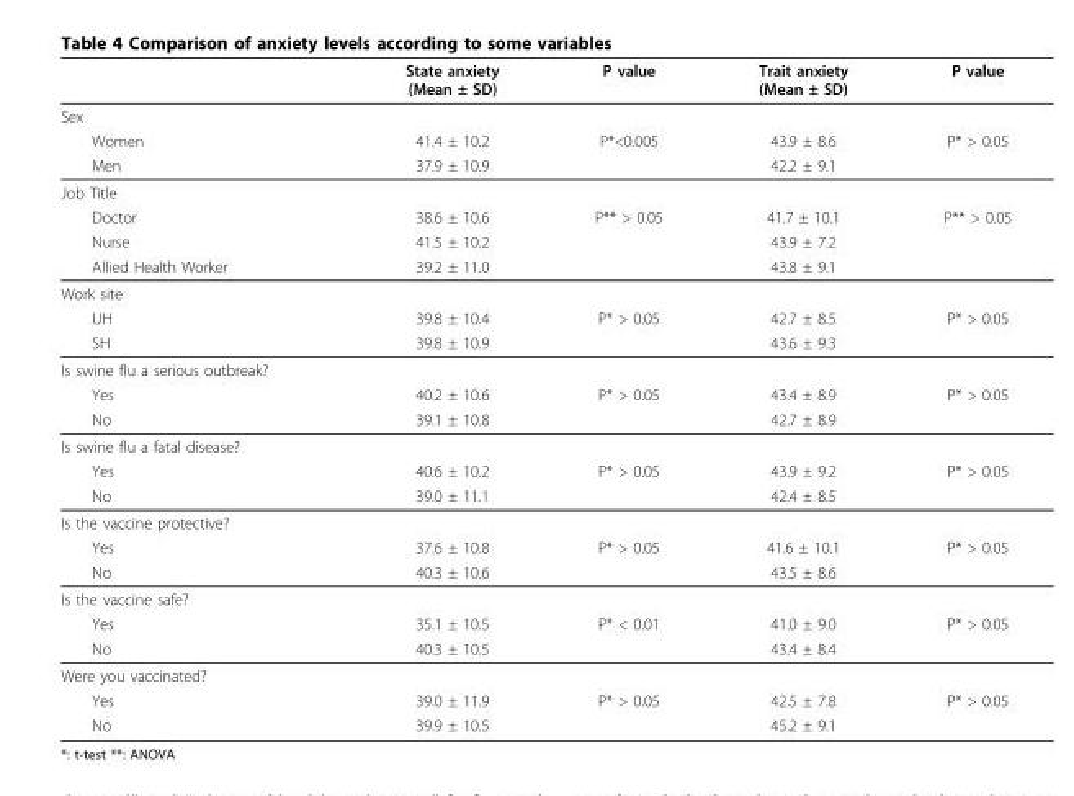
<table><thead><tr><td></td><td>State anxiety (Mean ± SD)</td><td>P value</td><td>Trait anxiety (Mean ± SD)</td><td>P value</td></tr></thead><tbody><tr><td colspan="5">Sex</td></tr><tr><td>Women</td><td>41.4 ± 10.2</td><td>P*&lt;0.005</td><td>43.9 ± 8.6</td><td>P* &gt; 0.05</td></tr><tr><td>Men</td><td>37.9 ± 10.9</td><td></td><td>42.2 ± 9.1</td><td></td></tr><tr><td colspan="5">Job Title</td></tr><tr><td>Doctor</td><td>38.6 ± 10.6</td><td>P** &gt; 0.05</td><td>41.7 ± 10.1</td><td>P** &gt; 0.05</td></tr><tr><td>Nurse</td><td>41.5 ± 10.2</td><td></td><td>43.9 ± 7.2</td><td></td></tr><tr><td>Allied Health Worker</td><td>39.2 ± 11.0</td><td></td><td>43.8 ± 9.1</td><td></td></tr><tr><td colspan="5">Work site</td></tr><tr><td>UH</td><td>39.8 ± 10.4</td><td>P* &gt; 0.05</td><td>42.7 ± 8.5</td><td>P* &gt; 0.05</td></tr><tr><td>SH</td><td>39.8 ± 10.9</td><td></td><td>43.6 ± 9.3</td><td></td></tr><tr><td colspan="5">Is swine flu a serious outbreak?</td></tr><tr><td>Yes</td><td>40.2 ± 10.6</td><td>P* &gt; 0.05</td><td>43.4 ± 8.9</td><td>P* &gt; 0.05</td></tr><tr><td>No</td><td>39.1 ± 10.8</td><td></td><td>42.7 ± 8.9</td><td></td></tr><tr><td colspan="5">Is swine flu a fatal disease?</td></tr><tr><td>Yes</td><td>40.6 ± 10.2</td><td>P* &gt; 0.05</td><td>43.9 ± 9.2</td><td>P* &gt; 0.05</td></tr><tr><td>No</td><td>39.0 ± 11.1</td><td></td><td>42.4 ± 8.5</td><td></td></tr><tr><td colspan="5">Is the vaccine protective?</td></tr><tr><td>Yes</td><td>37.6 ± 10.8</td><td>P* &gt; 0.05</td><td>41.6 ± 10.1</td><td>P* &gt; 0.05</td></tr><tr><td>No</td><td>40.3 ± 10.6</td><td></td><td>43.5 ± 8.6</td><td></td></tr><tr><td colspan="5">Is the vaccine safe?</td></tr><tr><td>Yes</td><td>35.1 ± 10.5</td><td>P* &lt; 0.01</td><td>41.0 ± 9.0</td><td>P* &gt; 0.05</td></tr><tr><td>No</td><td>40.3 ± 10.5</td><td></td><td>43.4 ± 8.4</td><td></td></tr><tr><td colspan="5">Were you vaccinated?</td></tr><tr><td>Yes</td><td>39.0 ± 11.9</td><td>P* &gt; 0.05</td><td>42.5 ± 7.8</td><td>P* &gt; 0.05</td></tr><tr><td>No</td><td>39.9 ± 10.5</td><td></td><td>45.2 ± 9.1</td><td></td></tr></tbody></table>